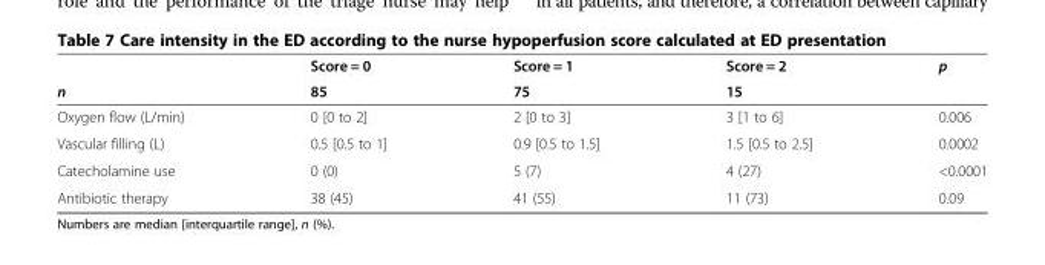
<table><thead><tr><td rowspan="2">n</td><td rowspan="2">Score = 0 85</td><td rowspan="2">Score = 1 75</td><td rowspan="2">Score = 2 15</td><td rowspan="2">p</td></tr><tr></tr></thead><tbody><tr><td>Oxygen flow (L/min)</td><td>0 [0 to 2]</td><td>2 [0 to 3]</td><td>3 [1 to 6]</td><td>0.006</td></tr><tr><td>Vascular filling (L)</td><td>0.5 [0.5 to 1]</td><td>0.9 [0.5 to 1.5]</td><td>1.5 [0.5 to 2.5]</td><td>0.0002</td></tr><tr><td>Catecholamine use</td><td>0 (0)</td><td>5 (7)</td><td>4 (27)</td><td>&lt;0.0001</td></tr><tr><td>Antibiotic therapy</td><td>38 (45)</td><td>41 (55)</td><td>11 (73)</td><td>0.09</td></tr></tbody></table>